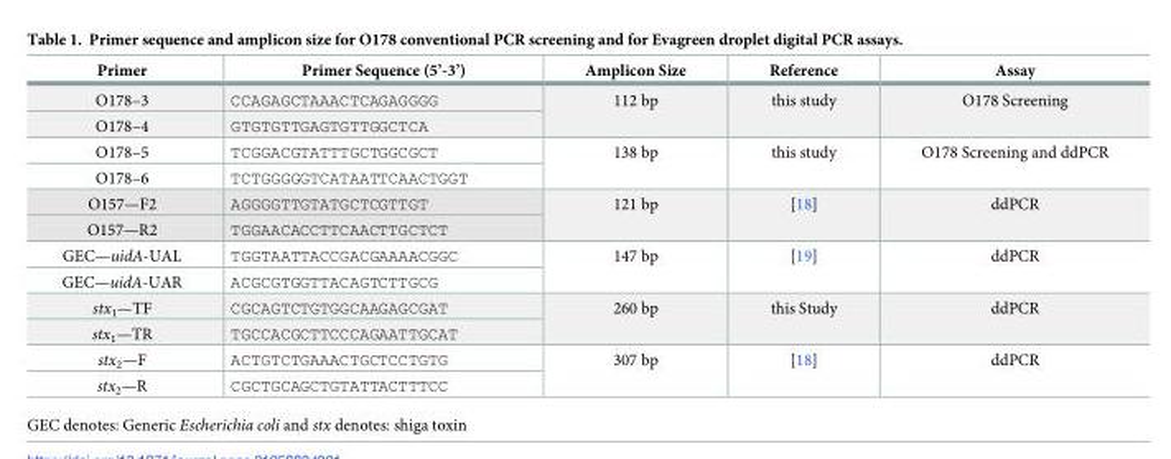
<table><thead><tr><td>Primer</td><td>Primer Sequence (5’-3’)</td><td>Amplicon Size</td><td>Reference</td><td>Assay</td></tr></thead><tbody><tr><td>O178–3</td><td>CCAGAGCTAAACTCAGAGGGG</td><td rowspan="2">112 bp</td><td rowspan="2">this study</td><td rowspan="2">O178 Screening</td></tr><tr><td>O178–4</td><td>GTGTGTTGAGTGTTGGCTCA</td></tr><tr><td>O178–5</td><td>TCGGACGTATTTGCTGGCGCT</td><td rowspan="2">138 bp</td><td rowspan="2">this study</td><td rowspan="2">O178 Screening and ddPCR</td></tr><tr><td>O178–6</td><td>TCTGGGGGTCATAATTCAACTGGT</td></tr><tr><td>O157—F2</td><td>AGGGGTTGTATGCTCGTTGT</td><td rowspan="2">121 bp</td><td rowspan="2">[18]</td><td rowspan="2">ddPCR</td></tr><tr><td>O157—R2</td><td>TGGAACACCTTCAACTTGCTCT</td></tr><tr><td>GEC—uidA-UAL</td><td>TGGTAATTACCGACGAAAACGGC</td><td rowspan="2">147 bp</td><td rowspan="2">[19]</td><td rowspan="2">ddPCR</td></tr><tr><td>GEC—uidA-UAR</td><td>ACGCGTGGTTACAGTCTTGCG</td></tr><tr><td>stx<sub>1</sub>—TF</td><td>CGCAGTCTGTGGCAAGAGCGAT</td><td rowspan="2">260 bp</td><td rowspan="2">this Study</td><td rowspan="2">ddPCR</td></tr><tr><td>stx<sub>1</sub>—TR</td><td>TGCCACGCTTCCCAGAATTGCAT</td></tr><tr><td>stx<sub>2</sub>—F</td><td>ACTGTCTGAAACTGCTCCTGTG</td><td rowspan="2">307 bp</td><td rowspan="2">[18]</td><td rowspan="2">ddPCR</td></tr><tr><td>stx<sub>2</sub>—R</td><td>CGCTGCAGCTGTATTACTTTCC</td></tr></tbody></table>